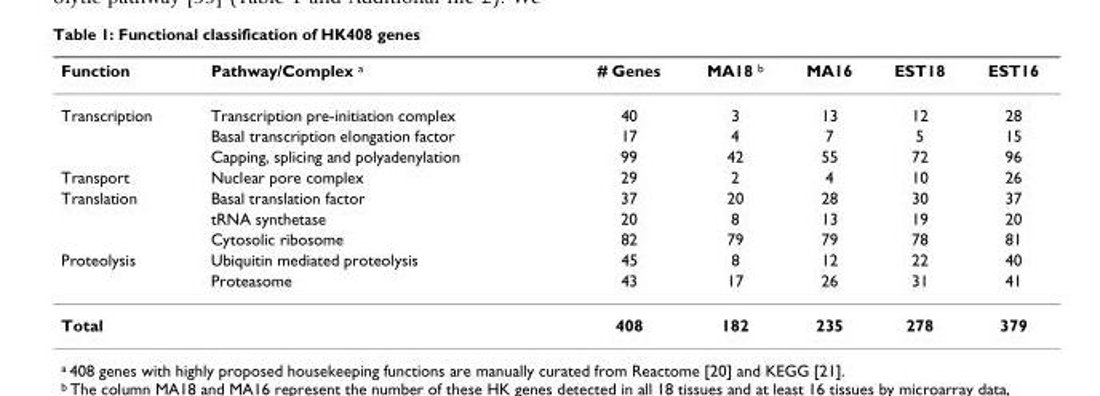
<table><thead><tr><td>Function</td><td>Pathway/Complex <sup>a</sup></td><td># Genes</td><td>MA18 <sup>b</sup></td><td>MA16</td><td>EST18</td><td>EST16</td></tr></thead><tbody><tr><td rowspan="3">Transcription</td><td>Transcription pre-initiation complex</td><td>40</td><td>3</td><td>13</td><td>12</td><td>28</td></tr><tr><td>Basal transcription elongation factor</td><td>17</td><td>4</td><td>7</td><td>5</td><td>15</td></tr><tr><td>Capping, splicing and polyadenylation</td><td>99</td><td>42</td><td>55</td><td>72</td><td>96</td></tr><tr><td>Transport</td><td>Nuclear pore complex</td><td>29</td><td>2</td><td>4</td><td>10</td><td>26</td></tr><tr><td rowspan="3">Translation</td><td>Basal translation factor</td><td>37</td><td>20</td><td>28</td><td>30</td><td>37</td></tr><tr><td>tRNA synthetase</td><td>20</td><td>8</td><td>13</td><td>19</td><td>20</td></tr><tr><td>Cytosolic ribosome</td><td>82</td><td>79</td><td>79</td><td>78</td><td>81</td></tr><tr><td rowspan="2">Proteolysis</td><td>Ubiquitin mediated proteolysis</td><td>45</td><td>8</td><td>12</td><td>22</td><td>40</td></tr><tr><td>Proteasome</td><td>43</td><td>17</td><td>26</td><td>31</td><td>41</td></tr><tr><td>Total</td><td></td><td>408</td><td>182</td><td>235</td><td>278</td><td>379</td></tr></tbody></table>